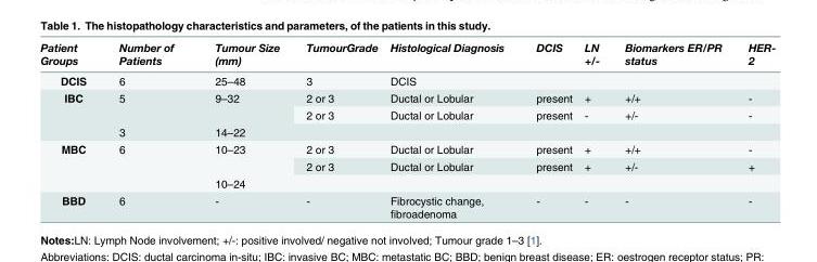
<table><thead><tr><td>Patient Groups</td><td>Number of Patients</td><td>Tumour Size (mm)</td><td>TumourGrade</td><td>Histological Diagnosis</td><td>DCIS</td><td>LN +/-</td><td>Biomarkers ER/PR status</td><td>HER- 2</td></tr></thead><tbody><tr><td>DCIS</td><td>6</td><td>25–48</td><td>3</td><td>DCIS</td><td></td><td></td><td></td><td></td></tr><tr><td rowspan="3">IBC</td><td rowspan="2">5</td><td rowspan="2">9–32</td><td>2 or 3</td><td>Ductal or Lobular</td><td>present</td><td>+</td><td>+/+</td><td>-</td></tr><tr><td>2 or 3</td><td>Ductal or Lobular</td><td>present</td><td>-</td><td>+/-</td><td>-</td></tr><tr><td>3</td><td>14–22</td><td></td><td></td><td></td><td></td><td></td><td></td></tr><tr><td rowspan="3">MBC</td><td rowspan="2">6</td><td rowspan="2">10–23</td><td>2 or 3</td><td>Ductal or Lobular</td><td>present</td><td>+</td><td>+/+</td><td>-</td></tr><tr><td>2 or 3</td><td>Ductal or Lobular</td><td>present</td><td>+</td><td>+/-</td><td>+</td></tr><tr><td></td><td>10–24</td><td></td><td></td><td></td><td></td><td></td><td></td></tr><tr><td>BBD</td><td>6</td><td>-</td><td>-</td><td>Fibrocystic change, fibroadenoma</td><td>-</td><td>-</td><td>-</td><td>-</td></tr></tbody></table>